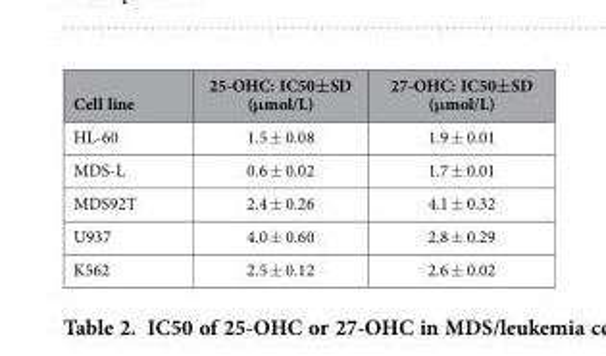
<table><thead><tr><td>Cell line</td><td>25-OHC: IC50±SD (μmol/L)</td><td>27-OHC: IC50±SD (μmol/L)</td></tr></thead><tbody><tr><td>HL-60</td><td>1.5 ± 0.08</td><td>1.9 ± 0.01</td></tr><tr><td>MDS-L</td><td>0.6 ± 0.02</td><td>1.7 ± 0.01</td></tr><tr><td>MDS92T</td><td>2.4 ± 0.26</td><td>4.1 ± 0.32</td></tr><tr><td>U937</td><td>4.0 ± 0.60</td><td>2.8 ± 0.29</td></tr><tr><td>K562</td><td>2.5 ± 0.12</td><td>2.6 ± 0.02</td></tr></tbody></table>